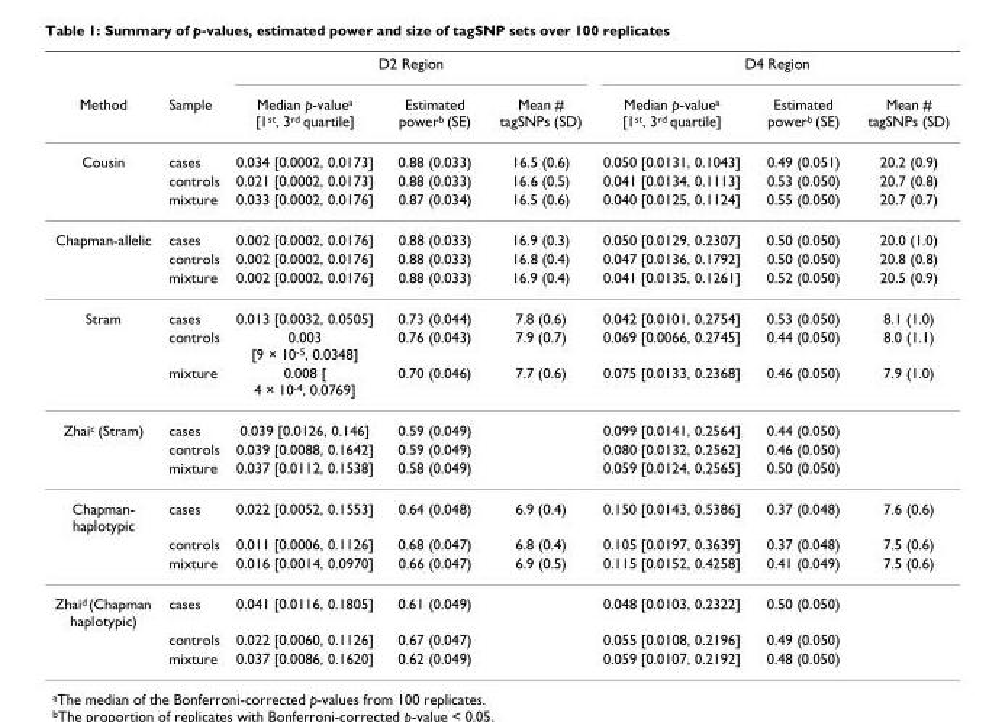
<table><thead><tr><td rowspan="2">Method</td><td rowspan="2">Sample</td><td colspan="3">D2 Region</td><td colspan="3">D4 Region</td></tr><tr><td>Median p-valuea [1st, 3rd quartile]</td><td>Estimated powerb (SE)</td><td>Mean # tagSNPs (SD)</td><td>Median p-valuea [1st, 3rd quartile]</td><td>Estimated powerb (SE)</td><td>Mean # tagSNPs (SD)</td></tr></thead><tbody><tr><td rowspan="3">Cousin</td><td>cases</td><td>0.034 [0.0002, 0.0173]</td><td>0.88 (0.033)</td><td>16.5 (0.6)</td><td>0.050 [0.0131, 0.1043]</td><td>0.49 (0.051)</td><td>20.2 (0.9)</td></tr><tr><td>controls</td><td>0.021 [0.0002, 0.0173]</td><td>0.88 (0.033)</td><td>16.6 (0.5)</td><td>0.041 [0.0134, 0.1113]</td><td>0.53 (0.050)</td><td>20.7 (0.8)</td></tr><tr><td>mixture</td><td>0.033 [0.0002, 0.0176]</td><td>0.87 (0.034)</td><td>16.5 (0.6)</td><td>0.040 [0.0125, 0.1124]</td><td>0.55 (0.050)</td><td>20.7 (0.7)</td></tr><tr><td rowspan="3">Chapman-allelic</td><td>cases</td><td>0.002 [0.0002, 0.0176]</td><td>0.88 (0.033)</td><td>16.9 (0.3)</td><td>0.050 [0.0129, 0.2307]</td><td>0.50 (0.050)</td><td>20.0 (1.0)</td></tr><tr><td>controls</td><td>0.002 [0.0002, 0.0176]</td><td>0.88 (0.033)</td><td>16.8 (0.4)</td><td>0.047 [0.0136, 0.1792]</td><td>0.50 (0.050)</td><td>20.8 (0.8)</td></tr><tr><td>mixture</td><td>0.002 [0.0002, 0.0176]</td><td>0.88 (0.033)</td><td>16.9 (0.4)</td><td>0.041 [0.0135, 0.1261]</td><td>0.52 (0.050)</td><td>20.5 (0.9)</td></tr><tr><td rowspan="3">Stram</td><td>cases</td><td>0.013 [0.0032, 0.0505]</td><td>0.73 (0.044)</td><td>7.8 (0.6)</td><td>0.042 [0.0101, 0.2754]</td><td>0.53 (0.050)</td><td>8.1 (1.0)</td></tr><tr><td>controls</td><td>0.003 [9 × 10-5, 0.0348]</td><td>0.76 (0.043)</td><td>7.9 (0.7)</td><td>0.069 [0.0066, 0.2745]</td><td>0.44 (0.050)</td><td>8.0 (1.1)</td></tr><tr><td>mixture</td><td>0.008 [ 4 × 10-4, 0.0769]</td><td>0.70 (0.046)</td><td>7.7 (0.6)</td><td>0.075 [0.0133, 0.2368]</td><td>0.46 (0.050)</td><td>7.9 (1.0)</td></tr><tr><td rowspan="3">Zhaic (Stram)</td><td>cases</td><td>0.039 [0.0126, 0.146]</td><td>0.59 (0.049)</td><td></td><td>0.099 [0.0141, 0.2564]</td><td>0.44 (0.050)</td><td></td></tr><tr><td>controls</td><td>0.039 [0.0088, 0.1642]</td><td>0.59 (0.049)</td><td></td><td>0.080 [0.0132, 0.2562]</td><td>0.46 (0.050)</td><td></td></tr><tr><td>mixture</td><td>0.037 [0.0112, 0.1538]</td><td>0.58 (0.049)</td><td></td><td>0.059 [0.0124, 0.2565]</td><td>0.50 (0.050)</td><td></td></tr><tr><td rowspan="3">Chapman- haplotypic</td><td>cases</td><td>0.022 [0.0052, 0.1553]</td><td>0.64 (0.048)</td><td>6.9 (0.4)</td><td>0.150 [0.0143, 0.5386]</td><td>0.37 (0.048)</td><td>7.6 (0.6)</td></tr><tr><td>controls</td><td>0.011 [0.0006, 0.1126]</td><td>0.68 (0.047)</td><td>6.8 (0.4)</td><td>0.105 [0.0197, 0.3639]</td><td>0.37 (0.048)</td><td>7.5 (0.6)</td></tr><tr><td>mixture</td><td>0.016 [0.0014, 0.0970]</td><td>0.66 (0.047)</td><td>6.9 (0.5)</td><td>0.115 [0.0152, 0.4258]</td><td>0.41 (0.049)</td><td>7.5 (0.6)</td></tr><tr><td rowspan="3">Zhaid (Chapman haplotypic)</td><td>cases</td><td>0.041 [0.0116, 0.1805]</td><td>0.61 (0.049)</td><td></td><td>0.048 [0.0103, 0.2322]</td><td>0.50 (0.050)</td><td></td></tr><tr><td>controls</td><td>0.022 [0.0060, 0.1126]</td><td>0.67 (0.047)</td><td></td><td>0.055 [0.0108, 0.2196]</td><td>0.49 (0.050)</td><td></td></tr><tr><td>mixture</td><td>0.037 [0.0086, 0.1620]</td><td>0.62 (0.049)</td><td></td><td>0.059 [0.0107, 0.2192]</td><td>0.48 (0.050)</td><td></td></tr></tbody></table>